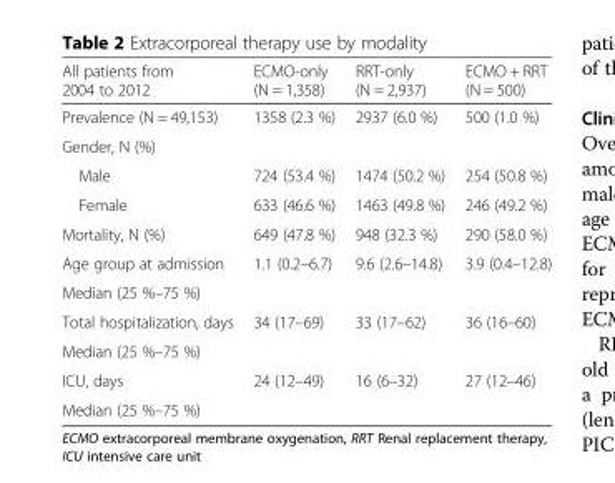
<table><thead><tr><td>All patients from 2004 to 2012</td><td>ECMO-only (N = 1,358)</td><td>RRT-only (N = 2,937)</td><td>ECMO + RRT (N = 500)</td></tr></thead><tbody><tr><td>Prevalence (N = 49,153)</td><td>1358 (2.3 %)</td><td>2937 (6.0 %)</td><td>500 (1.0 %)</td></tr><tr><td colspan="4">Gender, N (%)</td></tr><tr><td>Male</td><td>724 (53.4 %)</td><td>1474 (50.2 %)</td><td>254 (50.8 %)</td></tr><tr><td>Female</td><td>633 (46.6 %)</td><td>1463 (49.8 %)</td><td>246 (49.2 %)</td></tr><tr><td>Mortality, N (%)</td><td>649 (47.8 %)</td><td>948 (32.3 %)</td><td>290 (58.0 %)</td></tr><tr><td>Age group at admission</td><td rowspan="2">1.1 (0.2–6.7)</td><td rowspan="2">9.6 (2.6–14.8)</td><td rowspan="2">3.9 (0.4–12.8)</td></tr><tr><td>Median (25 %–75 %)</td></tr><tr><td>Total hospitalization, days</td><td rowspan="2">34 (17–69)</td><td rowspan="2">33 (17–62)</td><td rowspan="2">36 (16–60)</td></tr><tr><td>Median (25 %–75 %)</td></tr><tr><td>ICU, days</td><td rowspan="2">24 (12–49)</td><td rowspan="2">16 (6–32)</td><td rowspan="2">27 (12–46)</td></tr><tr><td>Median (25 %–75 %)</td></tr></tbody></table>